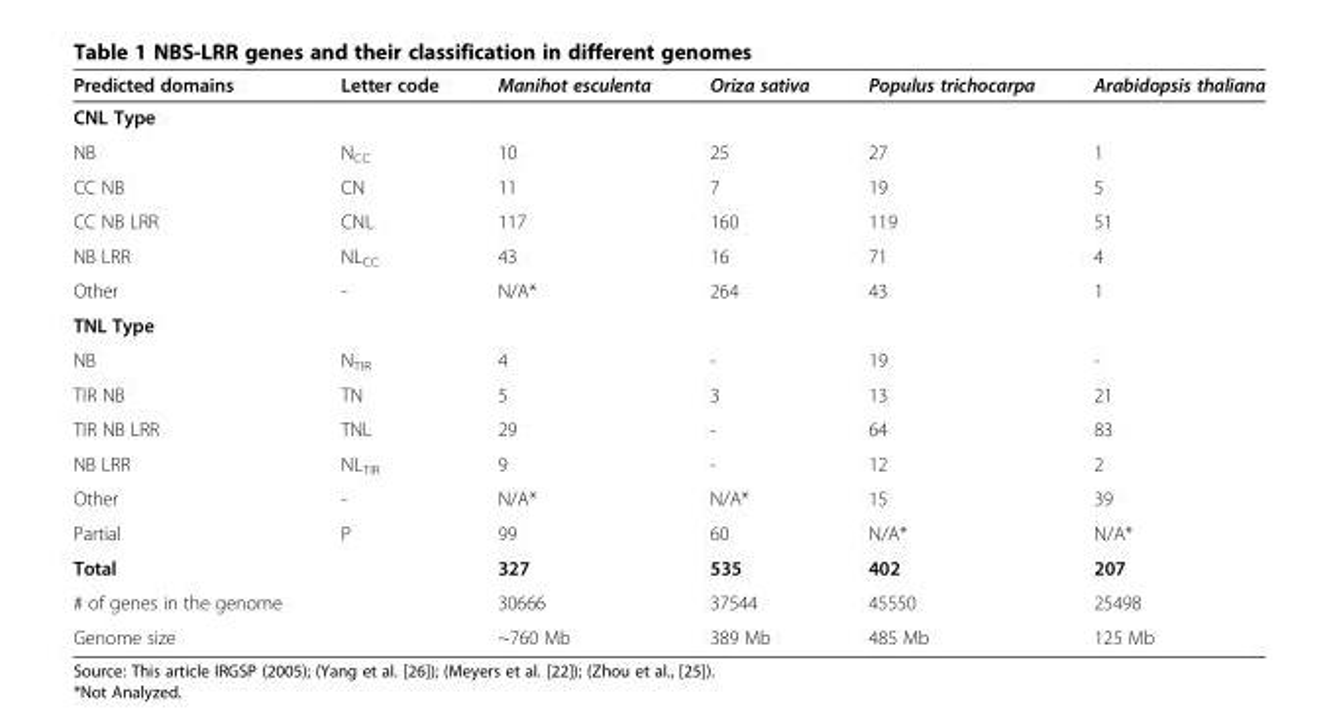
<table><thead><tr><td>Predicted domains</td><td>Letter code</td><td>Manihot esculenta</td><td>Oriza sativa</td><td>Populus trichocarpa</td><td>Arabidopsis thaliana</td></tr></thead><tbody><tr><td colspan="6">CNL Type</td></tr><tr><td>NB</td><td>N<sub>CC</sub></td><td>10</td><td>25</td><td>27</td><td>1</td></tr><tr><td>CC NB</td><td>CN</td><td>11</td><td>7</td><td>19</td><td>5</td></tr><tr><td>CC NB LRR</td><td>CNL</td><td>117</td><td>160</td><td>119</td><td>51</td></tr><tr><td>NB LRR</td><td>NL<sub>CC</sub></td><td>43</td><td>16</td><td>71</td><td>4</td></tr><tr><td>Other</td><td>-</td><td>N/A*</td><td>264</td><td>43</td><td>1</td></tr><tr><td colspan="6">TNL Type</td></tr><tr><td>NB</td><td>N<sub>TIR</sub></td><td>4</td><td>-</td><td>19</td><td>-</td></tr><tr><td>TIR NB</td><td>TN</td><td>5</td><td>3</td><td>13</td><td>21</td></tr><tr><td>TIR NB LRR</td><td>TNL</td><td>29</td><td>-</td><td>64</td><td>83</td></tr><tr><td>NB LRR</td><td>NL<sub>TIR</sub></td><td>9</td><td>-</td><td>12</td><td>2</td></tr><tr><td>Other</td><td>-</td><td>N/A*</td><td>N/A*</td><td>15</td><td>39</td></tr><tr><td>Partial</td><td>P</td><td>99</td><td>60</td><td>N/A*</td><td>N/A*</td></tr><tr><td>Total</td><td></td><td>327</td><td>535</td><td>402</td><td>207</td></tr><tr><td># of genes in the genome</td><td></td><td>30666</td><td>37544</td><td>45550</td><td>25498</td></tr><tr><td>Genome size</td><td></td><td>~760 Mb</td><td>389 Mb</td><td>485 Mb</td><td>125 Mb</td></tr></tbody></table>